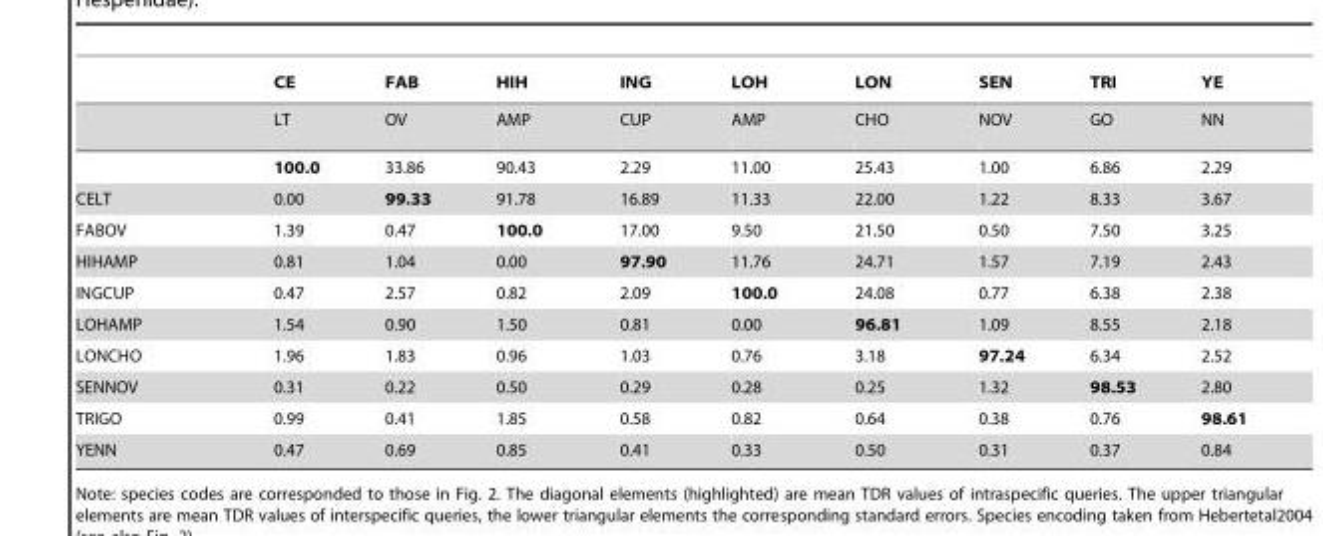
<table><thead><tr><td></td><td>CE</td><td>FAB</td><td>HIH</td><td>ING</td><td>LOH</td><td>LON</td><td>SEN</td><td>TRI</td><td>YE</td></tr></thead><tbody><tr><td></td><td>LT</td><td>OV</td><td>AMP</td><td>CUP</td><td>AMP</td><td>CHO</td><td>NOV</td><td>GO</td><td>NN</td></tr><tr><td></td><td>100.0</td><td>33.86</td><td>90.43</td><td>2.29</td><td>11.00</td><td>25.43</td><td>1.00</td><td>6.86</td><td>2.29</td></tr><tr><td>CELT</td><td>0.00</td><td>99.33</td><td>91.78</td><td>16.89</td><td>11.33</td><td>22.00</td><td>1.22</td><td>8.33</td><td>3.67</td></tr><tr><td>FABOV</td><td>1.39</td><td>0.47</td><td>100.0</td><td>17.00</td><td>9.50</td><td>21.50</td><td>0.50</td><td>7.50</td><td>3.25</td></tr><tr><td>HIHAMP</td><td>0.81</td><td>1.04</td><td>0.00</td><td>97.90</td><td>11.76</td><td>24.71</td><td>1.57</td><td>7.19</td><td>2.43</td></tr><tr><td>INGCUP</td><td>0.47</td><td>2.57</td><td>0.82</td><td>2.09</td><td>100.0</td><td>24.08</td><td>0.77</td><td>6.38</td><td>2.38</td></tr><tr><td>LOHAMP</td><td>1.54</td><td>0.90</td><td>1.50</td><td>0.81</td><td>0.00</td><td>96.81</td><td>1.09</td><td>8.55</td><td>2.18</td></tr><tr><td>LONCHO</td><td>1.96</td><td>1.83</td><td>0.96</td><td>1.03</td><td>0.76</td><td>3.18</td><td>97.24</td><td>6.34</td><td>2.52</td></tr><tr><td>SENNOV</td><td>0.31</td><td>0.22</td><td>0.50</td><td>0.29</td><td>0.28</td><td>0.25</td><td>1.32</td><td>98.53</td><td>2.80</td></tr><tr><td>TRIGO</td><td>0.99</td><td>0.41</td><td>1.85</td><td>0.58</td><td>0.82</td><td>0.64</td><td>0.38</td><td>0.76</td><td>98.61</td></tr><tr><td>YENN</td><td>0.47</td><td>0.69</td><td>0.85</td><td>0.41</td><td>0.33</td><td>0.50</td><td>0.31</td><td>0.37</td><td>0.84</td></tr></tbody></table>